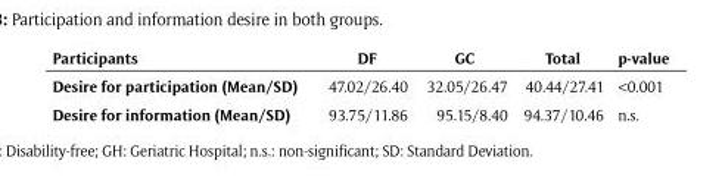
<table><thead><tr><td>Participants</td><td>DF</td><td>GC</td><td>Total</td><td>p-value</td></tr></thead><tbody><tr><td>Desire for participation (Mean/SD)</td><td>47.02/26.40</td><td>32.05/26.47</td><td>40.44/27.41</td><td>&lt;0.001</td></tr><tr><td>Desire for information (Mean/SD)</td><td>93.75/11.86</td><td>95.15/8.40</td><td>94.37/10.46</td><td>n.s.</td></tr></tbody></table>